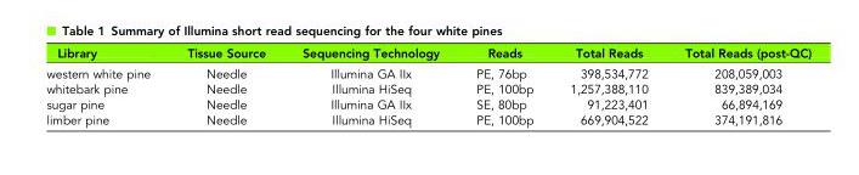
<table><thead><tr><td>Library</td><td>Tissue Source</td><td>Sequencing Technology</td><td>Reads</td><td>Total Reads</td><td>Total Reads (post-QC)</td></tr></thead><tbody><tr><td>western white pine</td><td>Needle</td><td>Illumina GA IIx</td><td>PE, 76bp</td><td>398,534,772</td><td>208,059,003</td></tr><tr><td>whitebark pine</td><td>Needle</td><td>Illumina HiSeq</td><td>PE, 100bp</td><td>1,257,388,110</td><td>839,389,034</td></tr><tr><td>sugar pine</td><td>Needle</td><td>Illumina GA IIx</td><td>SE, 80bp</td><td>91,223,401</td><td>66,894,169</td></tr><tr><td>limber pine</td><td>Needle</td><td>Illumina HiSeq</td><td>PE, 100bp</td><td>669,904,522</td><td>374,191,816</td></tr></tbody></table>